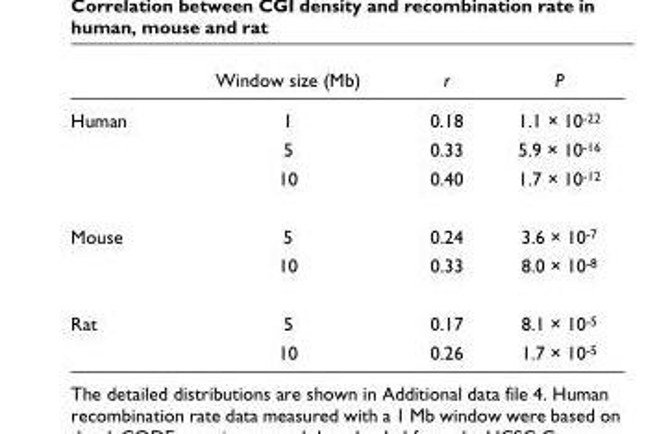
<table><thead><tr><td></td><td>Window size (Mb)</td><td>r</td><td>P</td></tr></thead><tbody><tr><td rowspan="3">Human</td><td>1</td><td>0.18</td><td>1.1 × 10<sup>-22</sup></td></tr><tr><td>5</td><td>0.33</td><td>5.9 × 10<sup>-16</sup></td></tr><tr><td>10</td><td>0.40</td><td>1.7 × 10<sup>-12</sup></td></tr><tr><td rowspan="2">Mouse</td><td>5</td><td>0.24</td><td>3.6 × 10<sup>-7</sup></td></tr><tr><td>10</td><td>0.33</td><td>8.0 × 10<sup>-8</sup></td></tr><tr><td rowspan="2">Rat</td><td>5</td><td>0.17</td><td>8.1 × 10<sup>-5</sup></td></tr><tr><td>10</td><td>0.26</td><td>1.7 × 10<sup>-5</sup></td></tr></tbody></table>